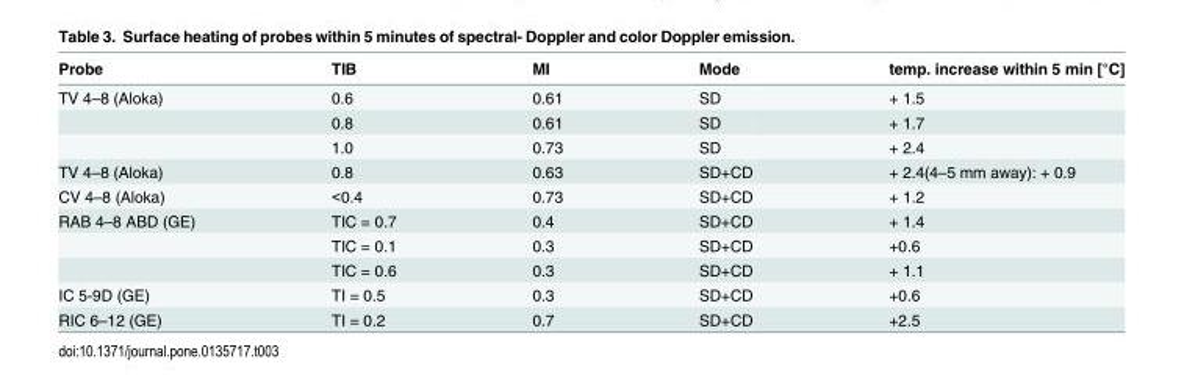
<table><thead><tr><td>Probe</td><td>TIB</td><td>MI</td><td>Mode</td><td>temp. increase within 5 min [°C]</td></tr></thead><tbody><tr><td rowspan="3">TV 4–8 (Aloka)</td><td>0.6</td><td>0.61</td><td>SD</td><td>+ 1.5</td></tr><tr><td>0.8</td><td>0.61</td><td>SD</td><td>+ 1.7</td></tr><tr><td>1.0</td><td>0.73</td><td>SD</td><td>+ 2.4</td></tr><tr><td>TV 4–8 (Aloka)</td><td>0.8</td><td>0.63</td><td>SD+CD</td><td>+ 2.4(4–5 mm away): + 0.9</td></tr><tr><td>CV 4–8 (Aloka)</td><td>&lt;0.4</td><td>0.73</td><td>SD+CD</td><td>+ 1.2</td></tr><tr><td rowspan="3">RAB 4–8 ABD (GE)</td><td>TIC = 0.7</td><td>0.4</td><td>SD+CD</td><td>+ 1.4</td></tr><tr><td>TIC = 0.1</td><td>0.3</td><td>SD+CD</td><td>+0.6</td></tr><tr><td>TIC = 0.6</td><td>0.3</td><td>SD+CD</td><td>+ 1.1</td></tr><tr><td>IC 5-9D (GE)</td><td>TI = 0.5</td><td>0.3</td><td>SD+CD</td><td>+0.6</td></tr><tr><td>RIC 6–12 (GE)</td><td>TI = 0.2</td><td>0.7</td><td>SD+CD</td><td>+2.5</td></tr></tbody></table>